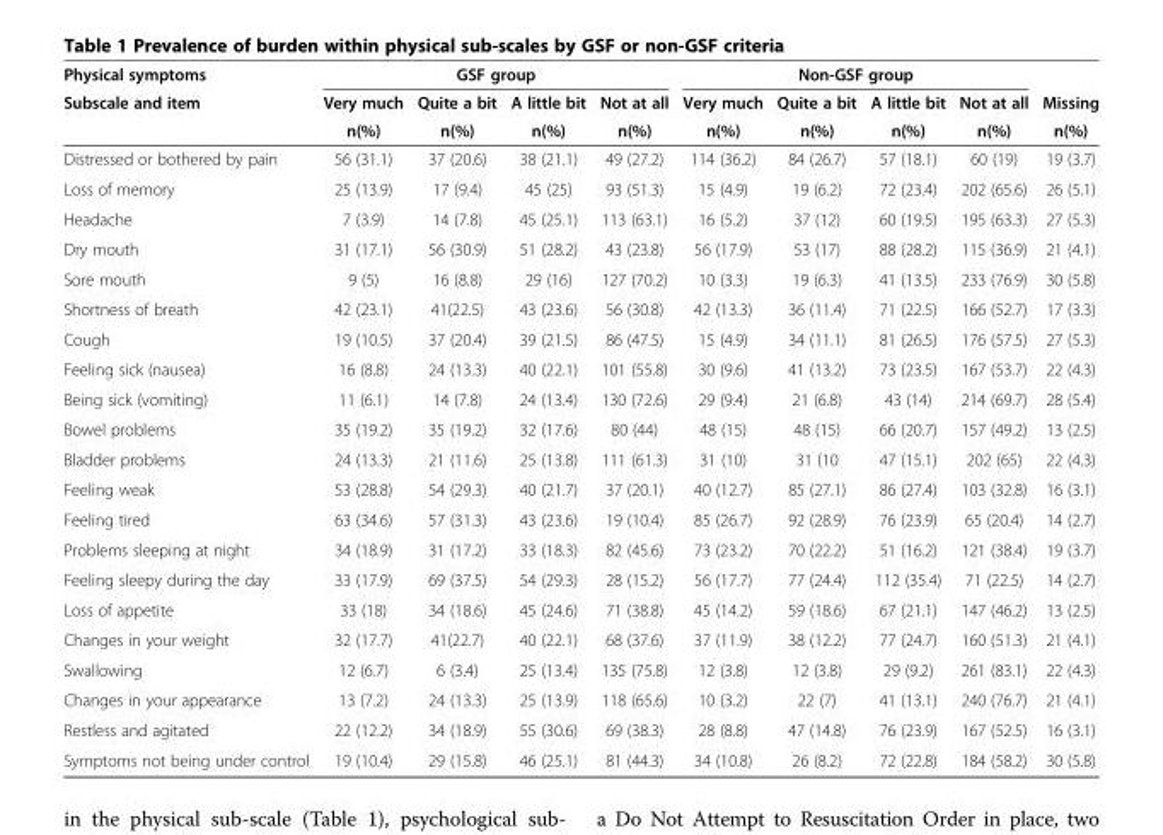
<table><thead><tr><td rowspan="3">Physical symptoms Subscale and item</td><td colspan="4">GSF group</td><td colspan="4">Non-GSF group</td><td rowspan="3">Missing n(%)</td></tr><tr><td rowspan="2">Very much n(%)</td><td rowspan="2">Quite a bit n(%)</td><td rowspan="2">A little bit n(%)</td><td rowspan="2">Not at all n(%)</td><td rowspan="2">Very much n(%)</td><td rowspan="2">Quite a bit n(%)</td><td rowspan="2">A little bit n(%)</td><td rowspan="2">Not at all n(%)</td></tr><tr></tr></thead><tbody><tr><td>Distressed or bothered by pain</td><td>56 (31.1)</td><td>37 (20.6)</td><td>38 (21.1)</td><td>49 (27.2)</td><td>114 (36.2)</td><td>84 (26.7)</td><td>57 (18.1)</td><td>60 (19)</td><td>19 (3.7)</td></tr><tr><td>Loss of memory</td><td>25 (13.9)</td><td>17 (9.4)</td><td>45 (25)</td><td>93 (51.3)</td><td>15 (4.9)</td><td>19 (6.2)</td><td>72 (23.4)</td><td>202 (65.6)</td><td>26 (5.1)</td></tr><tr><td>Headache</td><td>7 (3.9)</td><td>14 (7.8)</td><td>45 (25.1)</td><td>113 (63.1)</td><td>16 (5.2)</td><td>37 (12)</td><td>60 (19.5)</td><td>195 (63.3)</td><td>27 (5.3)</td></tr><tr><td>Dry mouth</td><td>31 (17.1)</td><td>56 (30.9)</td><td>51 (28.2)</td><td>43 (23.8)</td><td>56 (17.9)</td><td>53 (17)</td><td>88 (28.2)</td><td>115 (36.9)</td><td>21 (4.1)</td></tr><tr><td>Sore mouth</td><td>9 (5)</td><td>16 (8.8)</td><td>29 (16)</td><td>127 (70.2)</td><td>10 (3.3)</td><td>19 (6.3)</td><td>41 (13.5)</td><td>233 (76.9)</td><td>30 (5.8)</td></tr><tr><td>Shortness of breath</td><td>42 (23.1)</td><td>41(22.5)</td><td>43 (23.6)</td><td>56 (30.8)</td><td>42 (13.3)</td><td>36 (11.4)</td><td>71 (22.5)</td><td>166 (52.7)</td><td>17 (3.3)</td></tr><tr><td>Cough</td><td>19 (10.5)</td><td>37 (20.4)</td><td>39 (21.5)</td><td>86 (47.5)</td><td>15 (4.9)</td><td>34 (11.1)</td><td>81 (26.5)</td><td>176 (57.5)</td><td>27 (5.3)</td></tr><tr><td>Feeling sick (nausea)</td><td>16 (8.8)</td><td>24 (13.3)</td><td>40 (22.1)</td><td>101 (55.8)</td><td>30 (9.6)</td><td>41 (13.2)</td><td>73 (23.5)</td><td>167 (53.7)</td><td>22 (4.3)</td></tr><tr><td>Being sick (vomiting)</td><td>11 (6.1)</td><td>14 (7.8)</td><td>24 (13.4)</td><td>130 (72.6)</td><td>29 (9.4)</td><td>21 (6.8)</td><td>43 (14)</td><td>214 (69.7)</td><td>28 (5.4)</td></tr><tr><td>Bowel problems</td><td>35 (19.2)</td><td>35 (19.2)</td><td>32 (17.6)</td><td>80 (44)</td><td>48 (15)</td><td>48 (15)</td><td>66 (20.7)</td><td>157 (49.2)</td><td>13 (2.5)</td></tr><tr><td>Bladder problems</td><td>24 (13.3)</td><td>21 (11.6)</td><td>25 (13.8)</td><td>111 (61.3)</td><td>31 (10)</td><td>31 (10</td><td>47 (15.1)</td><td>202 (65)</td><td>22 (4.3)</td></tr><tr><td>Feeling weak</td><td>53 (28.8)</td><td>54 (29.3)</td><td>40 (21.7)</td><td>37 (20.1)</td><td>40 (12.7)</td><td>85 (27.1)</td><td>86 (27.4)</td><td>103 (32.8)</td><td>16 (3.1)</td></tr><tr><td>Feeling tired</td><td>63 (34.6)</td><td>57 (31.3)</td><td>43 (23.6)</td><td>19 (10.4)</td><td>85 (26.7)</td><td>92 (28.9)</td><td>76 (23.9)</td><td>65 (20.4)</td><td>14 (2.7)</td></tr><tr><td>Problems sleeping at night</td><td>34 (18.9)</td><td>31 (17.2)</td><td>33 (18.3)</td><td>82 (45.6)</td><td>73 (23.2)</td><td>70 (22.2)</td><td>51 (16.2)</td><td>121 (38.4)</td><td>19 (3.7)</td></tr><tr><td>Feeling sleepy during the day</td><td>33 (17.9)</td><td>69 (37.5)</td><td>54 (29.3)</td><td>28 (15.2)</td><td>56 (17.7)</td><td>77 (24.4)</td><td>112 (35.4)</td><td>71 (22.5)</td><td>14 (2.7)</td></tr><tr><td>Loss of appetite</td><td>33 (18)</td><td>34 (18.6)</td><td>45 (24.6)</td><td>71 (38.8)</td><td>45 (14.2)</td><td>59 (18.6)</td><td>67 (21.1)</td><td>147 (46.2)</td><td>13 (2.5)</td></tr><tr><td>Changes in your weight</td><td>32 (17.7)</td><td>41(22.7)</td><td>40 (22.1)</td><td>68 (37.6)</td><td>37 (11.9)</td><td>38 (12.2)</td><td>77 (24.7)</td><td>160 (51.3)</td><td>21 (4.1)</td></tr><tr><td>Swallowing</td><td>12 (6.7)</td><td>6 (3.4)</td><td>25 (13.4)</td><td>135 (75.8)</td><td>12 (3.8)</td><td>12 (3.8)</td><td>29 (9.2)</td><td>261 (83.1)</td><td>22 (4.3)</td></tr><tr><td>Changes in your appearance</td><td>13 (7.2)</td><td>24 (13.3)</td><td>25 (13.9)</td><td>118 (65.6)</td><td>10 (3.2)</td><td>22 (7)</td><td>41 (13.1)</td><td>240 (76.7)</td><td>21 (4.1)</td></tr><tr><td>Restless and agitated</td><td>22 (12.2)</td><td>34 (18.9)</td><td>55 (30.6)</td><td>69 (38.3)</td><td>28 (8.8)</td><td>47 (14.8)</td><td>76 (23.9)</td><td>167 (52.5)</td><td>16 (3.1)</td></tr><tr><td>Symptoms not being under control</td><td>19 (10.4)</td><td>29 (15.8)</td><td>46 (25.1)</td><td>81 (44.3)</td><td>34 (10.8)</td><td>26 (8.2)</td><td>72 (22.8)</td><td>184 (58.2)</td><td>30 (5.8)</td></tr></tbody></table>